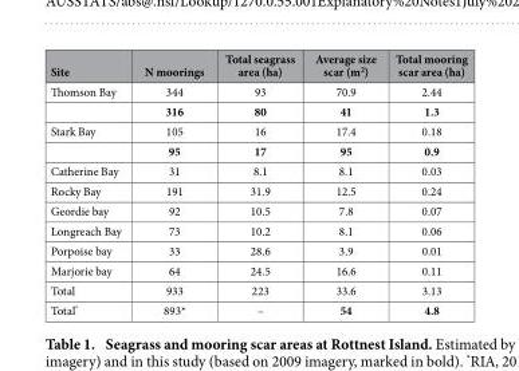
<table><thead><tr><td>Site</td><td>N moorings</td><td>Total seagrass area (ha)</td><td>Average size scar (m<sup>2</sup>)</td><td>Total mooring scar area (ha)</td></tr></thead><tbody><tr><td rowspan="2">Thomson Bay</td><td>344</td><td>93</td><td>70.9</td><td>2.44</td></tr><tr><td>316</td><td>80</td><td>41</td><td>1.3</td></tr><tr><td rowspan="2">Stark Bay</td><td>105</td><td>16</td><td>17.4</td><td>0.18</td></tr><tr><td>95</td><td>17</td><td>95</td><td>0.9</td></tr><tr><td>Catherine Bay</td><td>31</td><td>8.1</td><td>8.1</td><td>0.03</td></tr><tr><td>Rocky Bay</td><td>191</td><td>31.9</td><td>12.5</td><td>0.24</td></tr><tr><td>Geordie bay</td><td>92</td><td>10.5</td><td>7.8</td><td>0.07</td></tr><tr><td>Longreach Bay</td><td>73</td><td>10.2</td><td>8.1</td><td>0.06</td></tr><tr><td>Porpoise bay</td><td>33</td><td>28.6</td><td>3.9</td><td>0.01</td></tr><tr><td>Marjorie bay</td><td>64</td><td>24.5</td><td>16.6</td><td>0.11</td></tr><tr><td>Total</td><td>933</td><td>223</td><td>33.6</td><td>3.13</td></tr><tr><td>Total*</td><td>893*</td><td>–</td><td>54</td><td>4.8</td></tr></tbody></table>